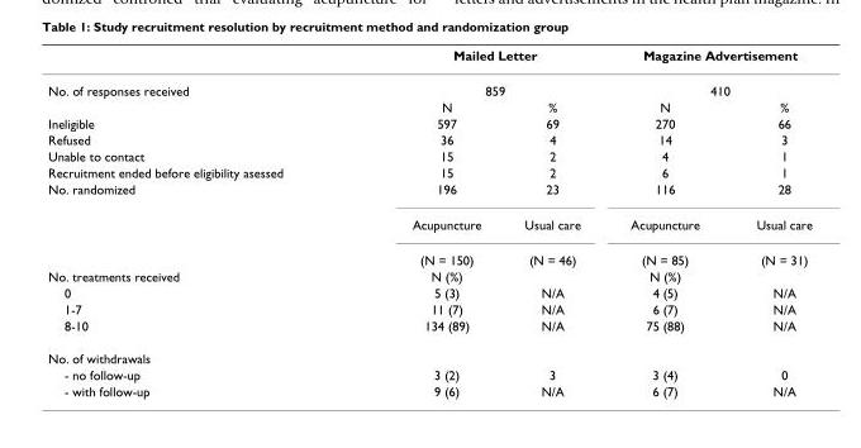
<table><thead><tr><td rowspan="3">No. of responses received</td><td rowspan="2" colspan="2">Mailed Letter 859</td><td rowspan="2" colspan="2">Magazine Advertisement 410</td></tr><tr></tr><tr><td>N</td><td>%</td><td>N</td><td>%</td></tr></thead><tbody><tr><td>Ineligible</td><td>597</td><td>69</td><td>270</td><td>66</td></tr><tr><td>Refused</td><td>36</td><td>4</td><td>14</td><td>3</td></tr><tr><td>Unable to contact</td><td>15</td><td>2</td><td>4</td><td>1</td></tr><tr><td>Recruitment ended before eligibility asessed</td><td>15</td><td>2</td><td>6</td><td>1</td></tr><tr><td rowspan="3">No. randomized</td><td>196</td><td>23</td><td>116</td><td>28</td></tr><tr><td>Acupuncture</td><td>Usual care</td><td>Acupuncture</td><td>Usual care</td></tr><tr><td>(N = 150)</td><td>(N = 46)</td><td>(N = 85)</td><td>(N = 31)</td></tr><tr><td>No. treatments received</td><td>N (%)</td><td></td><td>N (%)</td><td></td></tr><tr><td>0</td><td>5 (3)</td><td>N/A</td><td>4 (5)</td><td>N/A</td></tr><tr><td>1-7</td><td>11 (7)</td><td>N/A</td><td>6 (7)</td><td>N/A</td></tr><tr><td>8-10</td><td>134 (89)</td><td>N/A</td><td>75 (88)</td><td>N/A</td></tr><tr><td colspan="5">No. of withdrawals</td></tr><tr><td>- no follow-up</td><td>3 (2)</td><td>3</td><td>3 (4)</td><td>0</td></tr><tr><td>- with follow-up</td><td>9 (6)</td><td>N/A</td><td>6 (7)</td><td>N/A</td></tr></tbody></table>